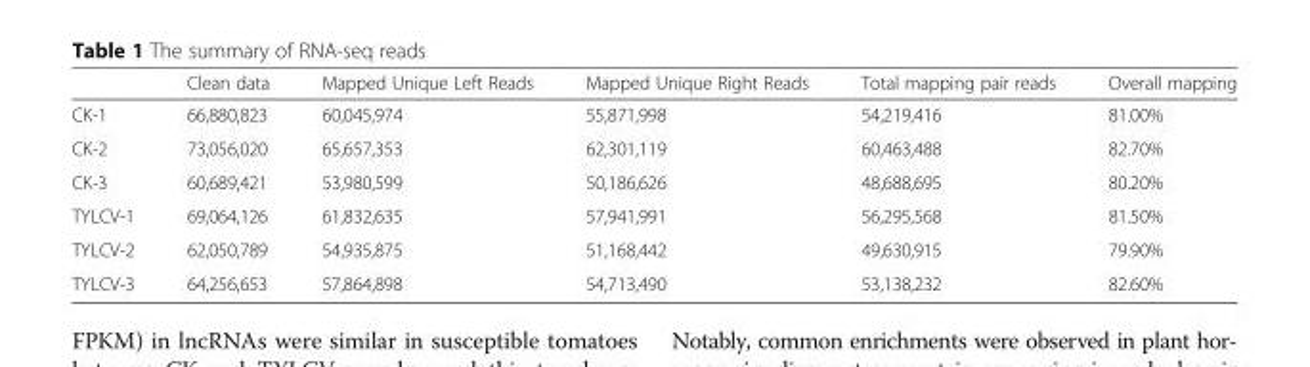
<table><thead><tr><td></td><td>Clean data</td><td>Mapped Unique Left Reads</td><td>Mapped Unique Right Reads</td><td>Total mapping pair reads</td><td>Overall mapping</td></tr></thead><tbody><tr><td>CK-1</td><td>66,880,823</td><td>60,045,974</td><td>55,871,998</td><td>54,219,416</td><td>81.00%</td></tr><tr><td>CK-2</td><td>73,056,020</td><td>65,657,353</td><td>62,301,119</td><td>60,463,488</td><td>82.70%</td></tr><tr><td>CK-3</td><td>60,689,421</td><td>53,980,599</td><td>50,186,626</td><td>48,688,695</td><td>80.20%</td></tr><tr><td>TYLCV-1</td><td>69,064,126</td><td>61,832,635</td><td>57,941,991</td><td>56,295,568</td><td>81.50%</td></tr><tr><td>TYLCV-2</td><td>62,050,789</td><td>54,935,875</td><td>51,168,442</td><td>49,630,915</td><td>79.90%</td></tr><tr><td>TYLCV-3</td><td>64,256,653</td><td>57,864,898</td><td>54,713,490</td><td>53,138,232</td><td>82.60%</td></tr></tbody></table>